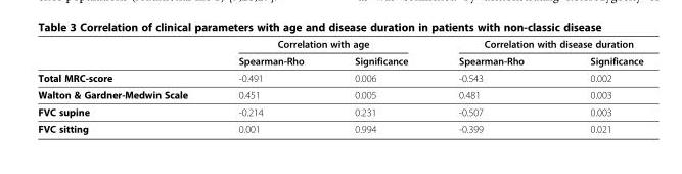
<table><thead><tr><td rowspan="2"></td><td colspan="2">Correlation with age</td><td colspan="2">Correlation with disease duration</td></tr><tr><td>Spearman-Rho</td><td>Significance</td><td>Spearman-Rho</td><td>Significance</td></tr></thead><tbody><tr><td>Total MRC-score</td><td>-0.491</td><td>0.006</td><td>-0.543</td><td>0.002</td></tr><tr><td>Walton &amp; Gardner-Medwin Scale</td><td>0.451</td><td>0.005</td><td>0.481</td><td>0.003</td></tr><tr><td>FVC supine</td><td>-0.214</td><td>0.231</td><td>-0.507</td><td>0.003</td></tr><tr><td>FVC sitting</td><td>0.001</td><td>0.994</td><td>-0.399</td><td>0.021</td></tr></tbody></table>